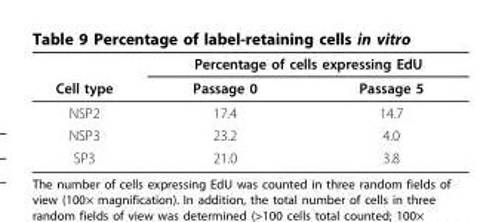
<table><thead><tr><td rowspan="2">Cell type</td><td colspan="2">Percentage of cells expressing EdU</td></tr><tr><td>Passage 0</td><td>Passage 5</td></tr></thead><tbody><tr><td>NSP2</td><td>17.4</td><td>14.7</td></tr><tr><td>NSP3</td><td>23.2</td><td>4.0</td></tr><tr><td>SP3</td><td>21.0</td><td>3.8</td></tr></tbody></table>